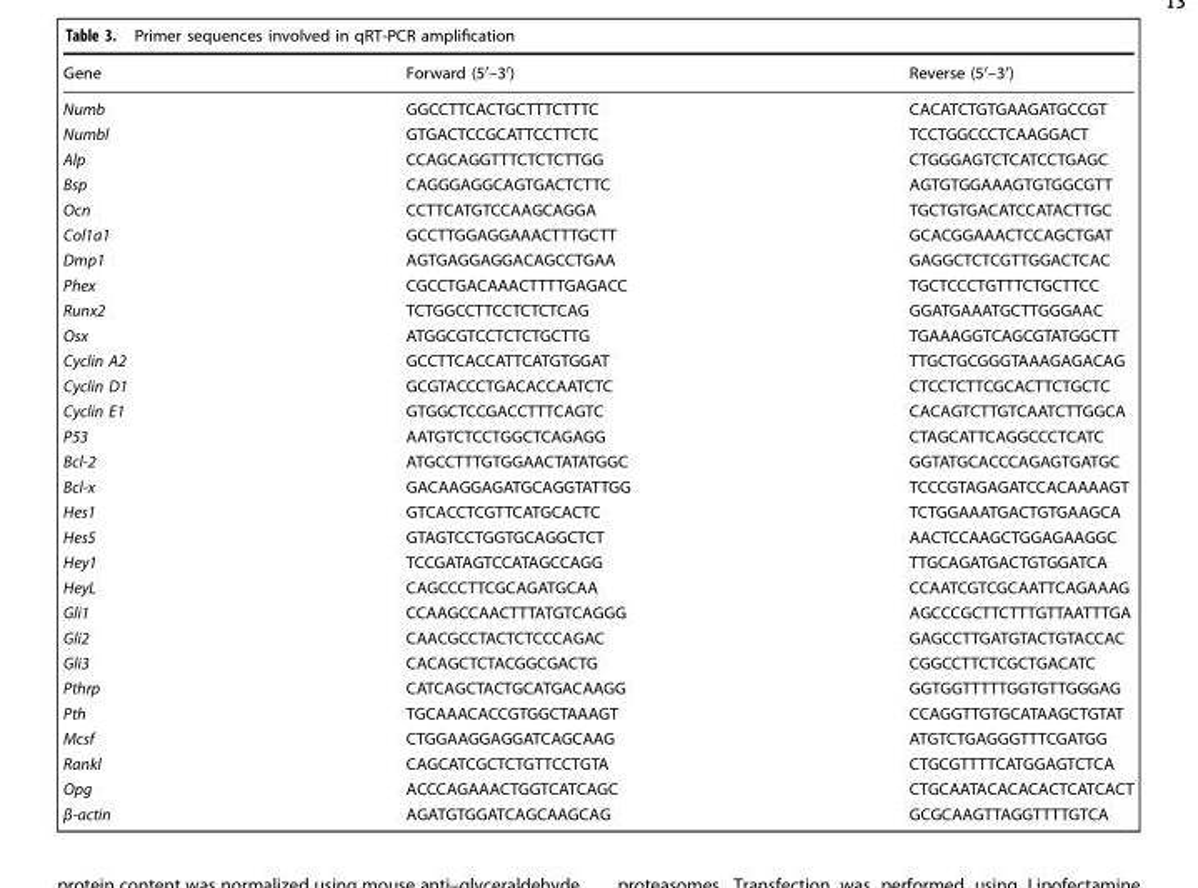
<table><thead><tr><td>Gene</td><td>Forward (5′–3′)</td><td>Reverse (5′–3′)</td></tr></thead><tbody><tr><td>Numb</td><td>GGCCTTCACTGCTTTCTTTC</td><td>CACATCTGTGAAGATGCCGT</td></tr><tr><td>Numbl</td><td>GTGACTCCGCATTCCTTCTC</td><td>TCCTGGCCCTCAAGGACT</td></tr><tr><td>Alp</td><td>CCAGCAGGTTTCTCTCTTGG</td><td>CTGGGAGTCTCATCCTGAGC</td></tr><tr><td>Bsp</td><td>CAGGGAGGCAGTGACTCTTC</td><td>AGTGTGGAAAGTGTGGCGTT</td></tr><tr><td>Ocn</td><td>CCTTCATGTCCAAGCAGGA</td><td>TGCTGTGACATCCATACTTGC</td></tr><tr><td>Col1a1</td><td>GCCTTGGAGGAAACTTTGCTT</td><td>GCACGGAAACTCCAGCTGAT</td></tr><tr><td>Dmp1</td><td>AGTGAGGAGGACAGCCTGAA</td><td>GAGGCTCTCGTTGGACTCAC</td></tr><tr><td>Phex</td><td>CGCCTGACAAACTTTTGAGACC</td><td>TGCTCCCTGTTTCTGCTTCC</td></tr><tr><td>Runx2</td><td>TCTGGCCTTCCTCTCTCAG</td><td>GGATGAAATGCTTGGGAAC</td></tr><tr><td>Osx</td><td>ATGGCGTCCTCTCTGCTTG</td><td>TGAAAGGTCAGCGTATGGCTT</td></tr><tr><td>Cyclin A2</td><td>GCCTTCACCATTCATGTGGAT</td><td>TTGCTGCGGGTAAAGAGACAG</td></tr><tr><td>Cyclin D1</td><td>GCGTACCCTGACACCAATCTC</td><td>CTCCTCTTCGCACTTCTGCTC</td></tr><tr><td>Cyclin E1</td><td>GTGGCTCCGACCTTTCAGTC</td><td>CACAGTCTTGTCAATCTTGGCA</td></tr><tr><td>P53</td><td>AATGTCTCCTGGCTCAGAGG</td><td>CTAGCATTCAGGCCCTCATC</td></tr><tr><td>Bcl-2</td><td>ATGCCTTTGTGGAACTATATGGC</td><td>GGTATGCACCCAGAGTGATGC</td></tr><tr><td>Bcl-x</td><td>GACAAGGAGATGCAGGTATTGG</td><td>TCCCGTAGAGATCCACAAAAGT</td></tr><tr><td>Hes1</td><td>GTCACCTCGTTCATGCACTC</td><td>TCTGGAAATGACTGTGAAGCA</td></tr><tr><td>Hes5</td><td>GTAGTCCTGGTGCAGGCTCT</td><td>AACTCCAAGCTGGAGAAGGC</td></tr><tr><td>Hey1</td><td>TCCGATAGTCCATAGCCAGG</td><td>TTGCAGATGACTGTGGATCA</td></tr><tr><td>HeyL</td><td>CAGCCCTTCGCAGATGCAA</td><td>CCAATCGTCGCAATTCAGAAAG</td></tr><tr><td>Gli1</td><td>CCAAGCCAACTTTATGTCAGGG</td><td>AGCCCGCTTCTTTGTTAATTTGA</td></tr><tr><td>Gli2</td><td>CAACGCCTACTCTCCCAGAC</td><td>GAGCCTTGATGTACTGTACCAC</td></tr><tr><td>Gli3</td><td>CACAGCTCTACGGCGACTG</td><td>CGGCCTTCTCGCTGACATC</td></tr><tr><td>Pthrp</td><td>CATCAGCTACTGCATGACAAGG</td><td>GGTGGTTTTTGGTGTTGGGAG</td></tr><tr><td>Pth</td><td>TGCAAACACCGTGGCTAAAGT</td><td>CCAGGTTGTGCATAAGCTGTAT</td></tr><tr><td>Mcsf</td><td>CTGGAAGGAGGATCAGCAAG</td><td>ATGTCTGAGGGTTTCGATGG</td></tr><tr><td>Rankl</td><td>CAGCATCGCTCTGTTCCTGTA</td><td>CTGCGTTTTCATGGAGTCTCA</td></tr><tr><td>Opg</td><td>ACCCAGAAACTGGTCATCAGC</td><td>CTGCAATACACACACTCATCACT</td></tr><tr><td>β-actin</td><td>AGATGTGGATCAGCAAGCAG</td><td>GCGCAAGTTAGGTTTTGTCA</td></tr></tbody></table>